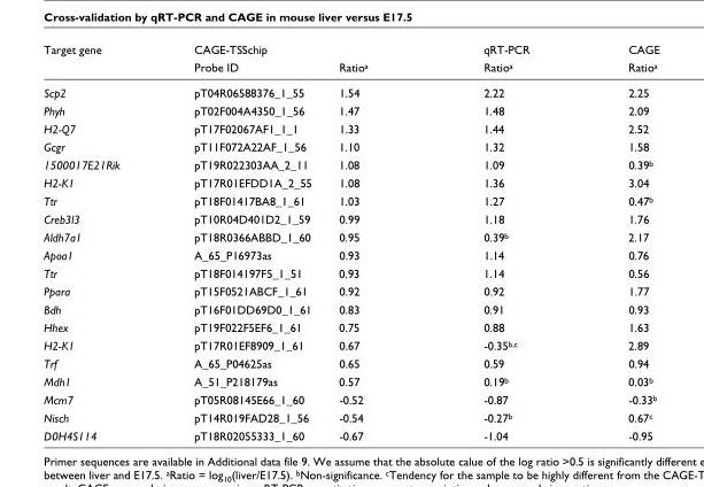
<table><thead><tr><td rowspan="2">Target gene</td><td rowspan="2">CAGE-TSSchip Probe ID</td><td rowspan="2">Ratio<sup>a</sup></td><td rowspan="2">qRT-PCR Ratio<sup>a</sup></td><td rowspan="2">CAGE Ratio<sup>a</sup></td></tr><tr></tr></thead><tbody><tr><td>Scp2</td><td>pT04R06588376_1_55</td><td>1.54</td><td>2.22</td><td>2.25</td></tr><tr><td>Phyh</td><td>pT02F004A4350_1_56</td><td>1.47</td><td>1.48</td><td>2.09</td></tr><tr><td>H2-Q7</td><td>pT17F02067AF1_1_1</td><td>1.33</td><td>1.44</td><td>2.52</td></tr><tr><td>Gcgr</td><td>pT11F072A22AF_1_56</td><td>1.10</td><td>1.32</td><td>1.58</td></tr><tr><td>1500017E21Rik</td><td>pT19R022303AA_2_11</td><td>1.08</td><td>1.09</td><td>0.39<sup>b</sup></td></tr><tr><td>H2-K1</td><td>pT17R01EFDD1A_2_55</td><td>1.08</td><td>1.36</td><td>3.04</td></tr><tr><td>Ttr</td><td>pT18F01417BA8_1_61</td><td>1.03</td><td>1.27</td><td>0.47<sup>b</sup></td></tr><tr><td>Creb3l3</td><td>pT10R04D401D2_1_59</td><td>0.99</td><td>1.18</td><td>1.76</td></tr><tr><td>Aldh7a1</td><td>pT18R0366ABBD_1_60</td><td>0.95</td><td>0.39<sup>b</sup></td><td>2.17</td></tr><tr><td>Apoa1</td><td>A_65_P16973as</td><td>0.93</td><td>1.14</td><td>0.76</td></tr><tr><td>Ttr</td><td>pT18F014197F5_1_51</td><td>0.93</td><td>1.14</td><td>0.56</td></tr><tr><td>Ppara</td><td>pT15F0521ABCF_1_61</td><td>0.92</td><td>0.92</td><td>1.77</td></tr><tr><td>Bdh</td><td>pT16F01DD69D0_1_61</td><td>0.83</td><td>0.91</td><td>0.93</td></tr><tr><td>Hhex</td><td>pT19F022F5EF6_1_61</td><td>0.75</td><td>0.88</td><td>1.63</td></tr><tr><td>H2-K1</td><td>pT17R01EF8909_1_61</td><td>0.67</td><td>-0.35<sup>b,c</sup></td><td>2.89</td></tr><tr><td>Trf</td><td>A_65_P04625as</td><td>0.65</td><td>0.59</td><td>0.94</td></tr><tr><td>Mdh1</td><td>A_51_P218179as</td><td>0.57</td><td>0.19<sup>b</sup></td><td>0.03<sup>b</sup></td></tr><tr><td>Mcm7</td><td>pT05R08145E66_1_60</td><td>-0.52</td><td>-0.87</td><td>-0.33<sup>b</sup></td></tr><tr><td>Nisch</td><td>pT14R019FAD28_1_56</td><td>-0.54</td><td>-0.27<sup>b</sup></td><td>0.67<sup>c</sup></td></tr><tr><td>D0H4S114</td><td>pT18R02055333_1_60</td><td>-0.67</td><td>-1.04</td><td>-0.95</td></tr></tbody></table>